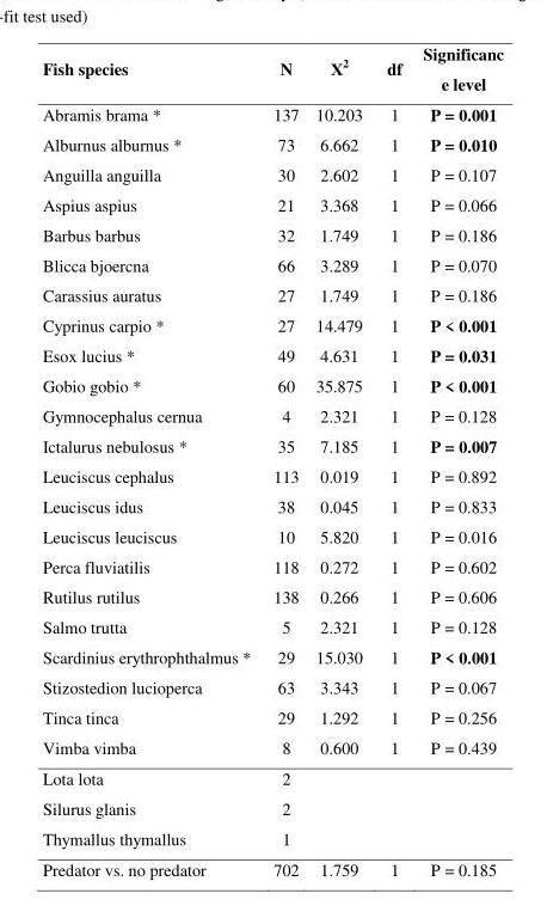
<table><thead><tr><td>Fish species</td><td>N</td><td>Х2</td><td>df</td><td>Significanc e level</td></tr></thead><tbody><tr><td>Abramis brama *</td><td>137</td><td>10.203</td><td>1</td><td>P = 0.001</td></tr><tr><td>Alburnus alburnus *</td><td>73</td><td>6.662</td><td>1</td><td>P = 0.010</td></tr><tr><td>Anguilla anguilla</td><td>30</td><td>2.602</td><td>1</td><td>P = 0.107</td></tr><tr><td>Aspius aspius</td><td>21</td><td>3.368</td><td>1</td><td>P = 0.066</td></tr><tr><td>Barbus barbus</td><td>32</td><td>1.749</td><td>1</td><td>P = 0.186</td></tr><tr><td>Blicca bjoercna</td><td>66</td><td>3.289</td><td>1</td><td>P = 0.070</td></tr><tr><td>Carassius auratus</td><td>27</td><td>1.749</td><td>1</td><td>P = 0.186</td></tr><tr><td>Cyprinus carpio *</td><td>27</td><td>14.479</td><td>1</td><td>P &lt; 0.001</td></tr><tr><td>Esox lucius *</td><td>49</td><td>4.631</td><td>1</td><td>P = 0.031</td></tr><tr><td>Gobio gobio *</td><td>60</td><td>35.875</td><td>1</td><td>P &lt; 0.001</td></tr><tr><td>Gymnocephalus cernua</td><td>4</td><td>2.321</td><td>1</td><td>P = 0.128</td></tr><tr><td>Ictalurus nebulosus *</td><td>35</td><td>7.185</td><td>1</td><td>P = 0.007</td></tr><tr><td>Leuciscus cephalus</td><td>113</td><td>0.019</td><td>1</td><td>P = 0.892</td></tr><tr><td>Leuciscus idus</td><td>38</td><td>0.045</td><td>1</td><td>P = 0.833</td></tr><tr><td>Leuciscus leuciscus</td><td>10</td><td>5.820</td><td>1</td><td>P = 0.016</td></tr><tr><td>Perca fluviatilis</td><td>118</td><td>0.272</td><td>1</td><td>P = 0.602</td></tr><tr><td>Rutilus rutilus</td><td>138</td><td>0.266</td><td>1</td><td>P = 0.606</td></tr><tr><td>Salmo trutta</td><td>5</td><td>2.321</td><td>1</td><td>P = 0.128</td></tr><tr><td>Scardinius erythrophthalmus *</td><td>29</td><td>15.030</td><td>1</td><td>P &lt; 0.001</td></tr><tr><td>Stizostedion lucioperca</td><td>63</td><td>3.343</td><td>1</td><td>P = 0.067</td></tr><tr><td>Tinca tinca</td><td>29</td><td>1.292</td><td>1</td><td>P = 0.256</td></tr><tr><td>Vimba vimba</td><td>8</td><td>0.600</td><td>1</td><td>P = 0.439</td></tr><tr><td>Lota lota</td><td>2</td><td></td><td></td><td></td></tr><tr><td>Silurus glanis</td><td>2</td><td></td><td></td><td></td></tr><tr><td>Thymallus thymallus</td><td>1</td><td></td><td></td><td></td></tr><tr><td>Predator vs. no predator</td><td>702</td><td>1.759</td><td>1</td><td>P = 0.185</td></tr></tbody></table>